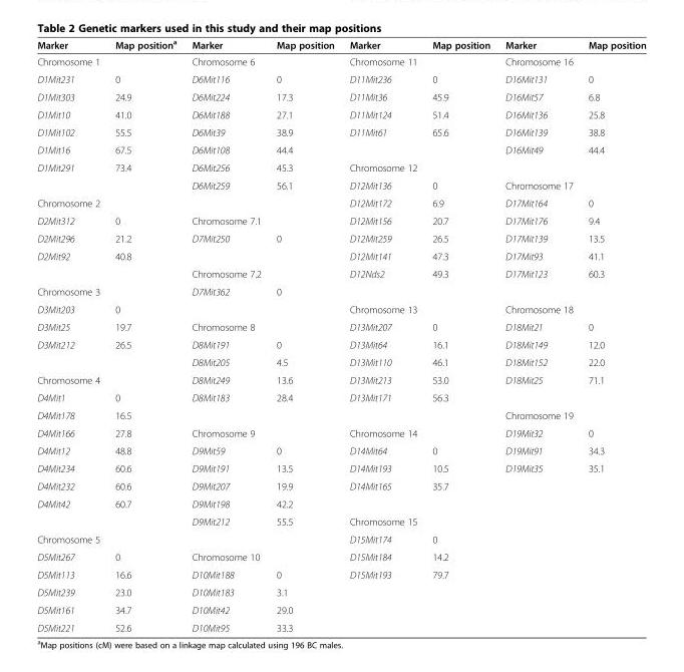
<table><thead><tr><td>Marker</td><td>Map position<sup>a</sup></td><td>Marker</td><td>Map position</td><td>Marker</td><td>Map position</td><td>Marker</td><td>Map position</td></tr></thead><tbody><tr><td>Chromosome 1</td><td></td><td>Chromosome 6</td><td></td><td>Chromosome 11</td><td></td><td>Chromosome 16</td><td></td></tr><tr><td>D1Mit231</td><td>0</td><td>D6Mit116</td><td>0</td><td>D11Mit236</td><td>0</td><td>D16Mit131</td><td>0</td></tr><tr><td>D1Mit303</td><td>24.9</td><td>D6Mit224</td><td>17.3</td><td>D11Mit36</td><td>45.9</td><td>D16Mit57</td><td>6.8</td></tr><tr><td>D1Mit10</td><td>41.0</td><td>D6Mit188</td><td>27.1</td><td>D11Mit124</td><td>51.4</td><td>D16Mit136</td><td>25.8</td></tr><tr><td>D1Mit102</td><td>55.5</td><td>D6Mit39</td><td>38.9</td><td>D11Mit61</td><td>65.6</td><td>D16Mit139</td><td>38.8</td></tr><tr><td>D1Mit16</td><td>67.5</td><td>D6Mit108</td><td>44.4</td><td></td><td></td><td>D16Mit49</td><td>44.4</td></tr><tr><td rowspan="2">D1Mit291</td><td>73.4</td><td>D6Mit256</td><td>45.3</td><td>Chromosome 12</td><td></td><td></td><td></td></tr><tr><td></td><td>D6Mit259</td><td>56.1</td><td>D12Mit136</td><td>0</td><td>Chromosome 17</td><td></td></tr><tr><td>Chromosome 2</td><td></td><td></td><td></td><td>D12Mit172</td><td>6.9</td><td>D17Mit164</td><td>0</td></tr><tr><td>D2Mit312</td><td>0</td><td>Chromosome 7.1</td><td></td><td>D12Mit156</td><td>20.7</td><td>D17Mit176</td><td>9.4</td></tr><tr><td>D2Mit296</td><td>21.2</td><td>D7Mit250</td><td>0</td><td>D12Mit259</td><td>26.5</td><td>D17Mit139</td><td>13.5</td></tr><tr><td rowspan="2">D2Mit92</td><td>40.8</td><td></td><td></td><td>D12Mit141</td><td>47.3</td><td>D17Mit93</td><td>41.1</td></tr><tr><td></td><td>Chromosome 7.2</td><td></td><td>D12Nds2</td><td>49.3</td><td>D17Mit123</td><td>60.3</td></tr><tr><td>Chromosome 3</td><td></td><td>D7Mit362</td><td>0</td><td></td><td></td><td></td><td></td></tr><tr><td>D3Mit203</td><td>0</td><td></td><td></td><td>Chromosome 13</td><td></td><td>Chromosome 18</td><td></td></tr><tr><td>D3Mit25</td><td>19.7</td><td>Chromosome 8</td><td></td><td>D13Mit207</td><td>0</td><td>D18Mit21</td><td>0</td></tr><tr><td rowspan="2">D3Mit212</td><td>26.5</td><td>D8Mit191</td><td>0</td><td>D13Mit64</td><td>16.1</td><td>D18Mit149</td><td>12.0</td></tr><tr><td></td><td>D8Mit205</td><td>4.5</td><td>D13Mit110</td><td>46.1</td><td>D18Mit152</td><td>22.0</td></tr><tr><td>Chromosome 4</td><td></td><td>D8Mit249</td><td>13.6</td><td>D13Mit213</td><td>53.0</td><td>D18Mit25</td><td>71.1</td></tr><tr><td>D4Mit1</td><td>0</td><td>D8Mit183</td><td>28.4</td><td>D13Mit171</td><td>56.3</td><td></td><td></td></tr><tr><td>D4Mit178</td><td>16.5</td><td></td><td></td><td></td><td></td><td>Chromosome 19</td><td></td></tr><tr><td>D4Mit166</td><td>27.8</td><td>Chromosome 9</td><td></td><td>Chromosome 14</td><td></td><td>D19Mit32</td><td>0</td></tr><tr><td>D4Mit12</td><td>48.8</td><td>D9Mit59</td><td>0</td><td>D14Mit64</td><td>0</td><td>D19Mit91</td><td>34.3</td></tr><tr><td>D4Mit234</td><td>60.6</td><td>D9Mit191</td><td>13.5</td><td>D14Mit193</td><td>10.5</td><td>D19Mit35</td><td>35.1</td></tr><tr><td>D4Mit232</td><td>60.6</td><td>D9Mit207</td><td>19.9</td><td>D14Mit165</td><td>35.7</td><td></td><td></td></tr><tr><td rowspan="2">D4Mit42</td><td>60.7</td><td>D9Mit198</td><td>42.2</td><td></td><td></td><td></td><td></td></tr><tr><td></td><td>D9Mit212</td><td>55.5</td><td>Chromosome 15</td><td></td><td></td><td></td></tr><tr><td>Chromosome 5</td><td></td><td></td><td></td><td>D15Mit174</td><td>0</td><td></td><td></td></tr><tr><td>D5Mit267</td><td>0</td><td>Chromosome 10</td><td></td><td>D15Mit184</td><td>14.2</td><td></td><td></td></tr><tr><td>D5Mit113</td><td>16.6</td><td>D10Mit188</td><td>0</td><td>D15Mit193</td><td>79.7</td><td></td><td></td></tr><tr><td>D5Mit239</td><td>23.0</td><td>D10Mit183</td><td>3.1</td><td></td><td></td><td></td><td></td></tr><tr><td>D5Mit161</td><td>34.7</td><td>D10Mit42</td><td>29.0</td><td></td><td></td><td></td><td></td></tr><tr><td>D5Mit221</td><td>52.6</td><td>D10Mit95</td><td>33.3</td><td></td><td></td><td></td><td></td></tr></tbody></table>